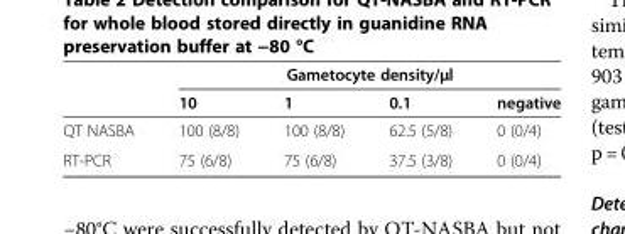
<table><thead><tr><td rowspan="2"></td><td colspan="4">Gametocyte density/μl</td></tr><tr><td>10</td><td>1</td><td>0.1</td><td>negative</td></tr></thead><tbody><tr><td>QT NASBA</td><td>100 (8/8)</td><td>100 (8/8)</td><td>62.5 (5/8)</td><td>0 (0/4)</td></tr><tr><td>RT-PCR</td><td>75 (6/8)</td><td>75 (6/8)</td><td>37.5 (3/8)</td><td>0 (0/4)</td></tr></tbody></table>